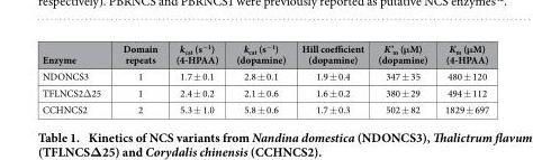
<table><thead><tr><td>Enzyme</td><td>Domain repeats</td><td>k<sub>cat</sub> (s<sup>−1</sup>) (4-HPAA)</td><td>k<sub>cat</sub> (s<sup>−1</sup>) (dopamine)</td><td>Hill coefficient (dopamine)</td><td>K’<sub>m</sub> (μM) (dopamine)</td><td>K<sub>m</sub> (μM) (4-HPAA)</td></tr></thead><tbody><tr><td>NDONCS3</td><td>1</td><td>1.7 ± 0.1</td><td>2.8 ± 0.1</td><td>1.9 ± 0.4</td><td>347 ± 35</td><td>480 ± 120</td></tr><tr><td>TFLNCS2Δ 25</td><td>1</td><td>2.4 ± 0.2</td><td>2.1 ± 0.6</td><td>1.6 ± 0.2</td><td>380 ± 29</td><td>494 ± 112</td></tr><tr><td>CCHNCS2</td><td>2</td><td>5.3 ± 1.0</td><td>5.8 ± 0.6</td><td>1.7 ± 0.3</td><td>502 ± 82</td><td>1829 ± 697</td></tr></tbody></table>